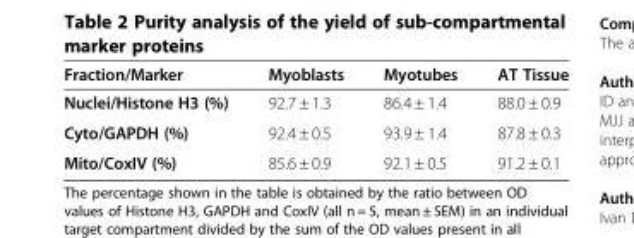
<table><thead><tr><td>Fraction/Marker</td><td>Myoblasts</td><td>Myotubes</td><td>AT Tissue</td></tr></thead><tbody><tr><td>Nuclei/Histone H3 (%)</td><td>92.7 ± 1.3</td><td>86.4 ± 1.4</td><td>88.0 ± 0.9</td></tr><tr><td>Cyto/GAPDH (%)</td><td>92.4 ± 0.5</td><td>93.9 ± 1.4</td><td>87.8 ± 0.3</td></tr><tr><td>Mito/CoxIV (%)</td><td>85.6 ± 0.9</td><td>92.1 ± 0.5</td><td>91.2 ± 0.1</td></tr></tbody></table>